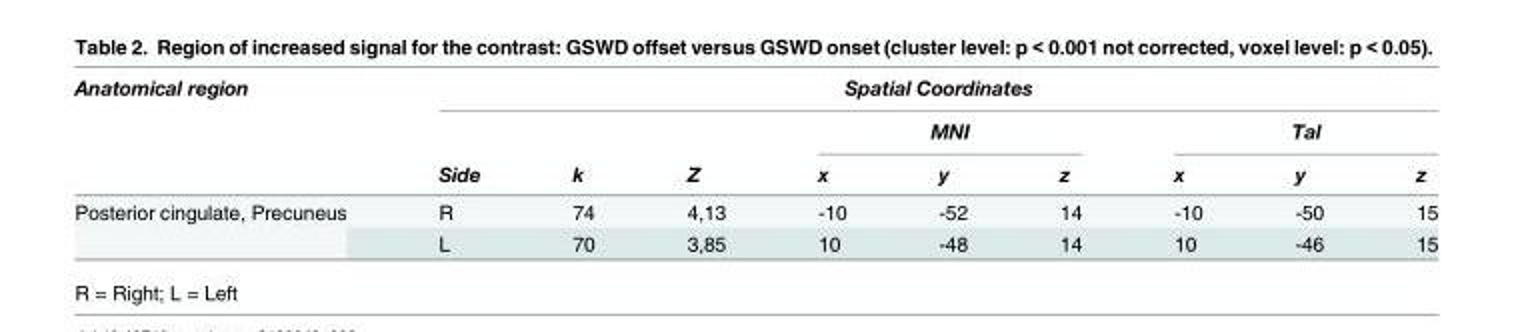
<table><thead><tr><td rowspan="3">Anatomical region</td><td colspan="9">Spatial Coordinates</td></tr><tr><td rowspan="2">Side</td><td rowspan="2">k</td><td rowspan="2">Z</td><td colspan="3">MNI</td><td colspan="3">Tal</td></tr><tr><td>x</td><td>y</td><td>z</td><td>x</td><td>y</td><td>z</td></tr></thead><tbody><tr><td rowspan="2">Posterior cingulate, Precuneus</td><td>R</td><td>74</td><td>4,13</td><td>-10</td><td>-52</td><td>14</td><td>-10</td><td>-50</td><td>15</td></tr><tr><td>L</td><td>70</td><td>3,85</td><td>10</td><td>-48</td><td>14</td><td>10</td><td>-46</td><td>15</td></tr></tbody></table>